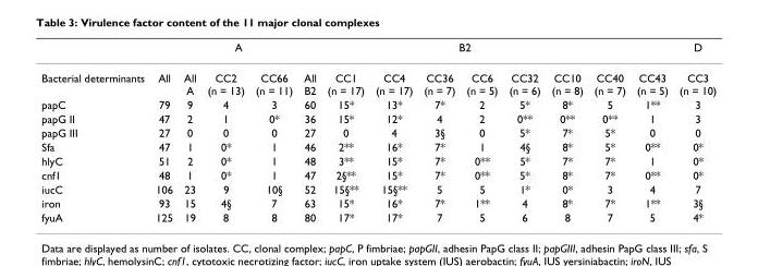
<table><thead><tr><td rowspan="2">Bacterial determinants</td><td rowspan="2">All</td><td colspan="3">A</td><td colspan="8">B2</td><td rowspan="2">CC43 (n = 5)</td><td rowspan="2">D CC3 (n = 10)</td></tr><tr><td>All A</td><td>CC2 (n = 13)</td><td>CC66 (n = 11)</td><td>All B2</td><td>CC1 (n = 17)</td><td>CC4 (n = 17)</td><td>CC36 (n = 7)</td><td>CC6 (n = 5)</td><td>CC32 (n = 6)</td><td>CC10 (n = 8)</td><td>CC40 (n = 7)</td></tr></thead><tbody><tr><td>papC</td><td>79</td><td>9</td><td>4</td><td>3</td><td>60</td><td>15*</td><td>13*</td><td>7*</td><td>2</td><td>5*</td><td>8*</td><td>5</td><td>1**</td><td>3</td></tr><tr><td>papG II</td><td>47</td><td>2</td><td>1</td><td>0*</td><td>36</td><td>15*</td><td>12*</td><td>4</td><td>2</td><td>0**</td><td>0**</td><td>0**</td><td>1</td><td>3</td></tr><tr><td>papG III</td><td>27</td><td>0</td><td>0</td><td>0</td><td>27</td><td>0</td><td>4</td><td>3§</td><td>0</td><td>5*</td><td>7*</td><td>5*</td><td>0</td><td>0</td></tr><tr><td>Sfa</td><td>47</td><td>1</td><td>0*</td><td>1</td><td>46</td><td>2**</td><td>16*</td><td>7*</td><td>1</td><td>4§</td><td>8*</td><td>5*</td><td>0**</td><td>0*</td></tr><tr><td>hlyC</td><td>51</td><td>2</td><td>0*</td><td>1</td><td>48</td><td>3**</td><td>15*</td><td>7*</td><td>0**</td><td>5*</td><td>7*</td><td>7*</td><td>1</td><td>0*</td></tr><tr><td>cnf1</td><td>48</td><td>1</td><td>0*</td><td>1</td><td>47</td><td>2§**</td><td>15*</td><td>7*</td><td>0**</td><td>5*</td><td>8*</td><td>7*</td><td>0**</td><td>0*</td></tr><tr><td>iucC</td><td>106</td><td>23</td><td>9</td><td>10§</td><td>52</td><td>15§**</td><td>15§**</td><td>5</td><td>5</td><td>1*</td><td>0*</td><td>3</td><td>4</td><td>7</td></tr><tr><td>iron</td><td>93</td><td>15</td><td>4§</td><td>7</td><td>63</td><td>15*</td><td>16*</td><td>7*</td><td>1**</td><td>4</td><td>8*</td><td>7*</td><td>1**</td><td>3§</td></tr><tr><td>fyuA</td><td>125</td><td>19</td><td>8</td><td>8</td><td>80</td><td>17*</td><td>17*</td><td>7</td><td>5</td><td>6</td><td>8</td><td>7</td><td>5</td><td>4*</td></tr></tbody></table>